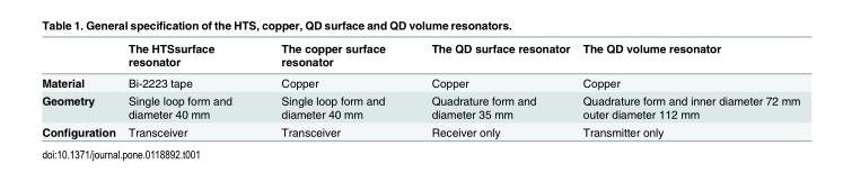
<table><thead><tr><td></td><td>The HTSsurface resonator</td><td>The copper surface resonator</td><td>The QD surface resonator</td><td>The QD volume resonator</td></tr></thead><tbody><tr><td>Material</td><td>Bi-2223 tape</td><td>Copper</td><td>Copper</td><td>Copper</td></tr><tr><td>Geometry</td><td>Single loop form and diameter 40 mm</td><td>Single loop form and diameter 40 mm</td><td>Quadrature form and diameter 35 mm</td><td>Quadrature form and inner diameter 72 mm outer diameter 112 mm</td></tr><tr><td>Configuration</td><td>Transceiver</td><td>Transceiver</td><td>Receiver only</td><td>Transmitter only</td></tr></tbody></table>